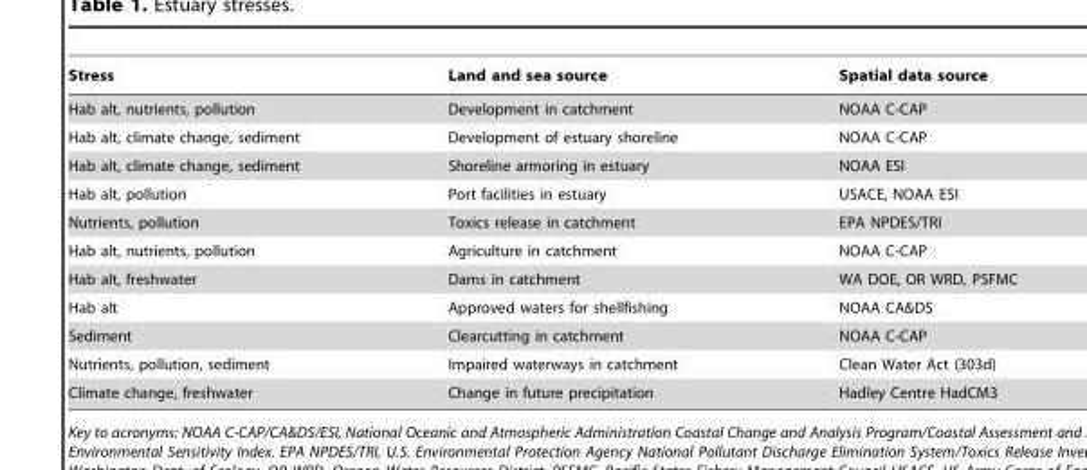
<table><thead><tr><td>Stress</td><td>Land and sea source</td><td>Spatial data source</td></tr></thead><tbody><tr><td>Hab alt, nutrients, pollution</td><td>Development in catchment</td><td>NOAA C-CAP</td></tr><tr><td>Hab alt, climate change, sediment</td><td>Development of estuary shoreline</td><td>NOAA C-CAP</td></tr><tr><td>Hab alt, climate change, sediment</td><td>Shoreline armoring in estuary</td><td>NOAA ESI</td></tr><tr><td>Hab alt, pollution</td><td>Port facilities in estuary</td><td>USACE, NOAA ESI</td></tr><tr><td>Nutrients, pollution</td><td>Toxics release in catchment</td><td>EPA NPDES/TRI</td></tr><tr><td>Hab alt, nutrients, pollution</td><td>Agriculture in catchment</td><td>NOAA C-CAP</td></tr><tr><td>Hab alt, freshwater</td><td>Dams in catchment</td><td>WA DOE, OR WRD, PSFMC</td></tr><tr><td>Hab alt</td><td>Approved waters for shellfishing</td><td>NOAA CA&amp;DS</td></tr><tr><td>Sediment</td><td>Clearcutting in catchment</td><td>NOAA C-CAP</td></tr><tr><td>Nutrients, pollution, sediment</td><td>Impaired waterways in catchment</td><td>Clean Water Act (303d)</td></tr><tr><td>Climate change, freshwater</td><td>Change in future precipitation</td><td>Hadley Centre HadCM3</td></tr></tbody></table>